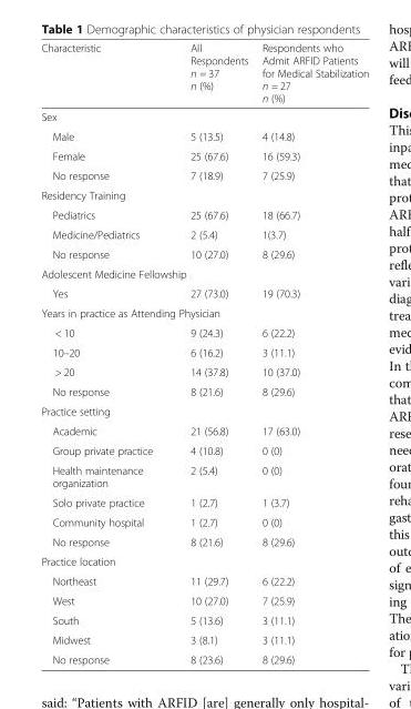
<table><thead><tr><td>Characteristic</td><td>All Respondents n = 37 n (%)</td><td>Respondents who Admit ARFID Patients for Medical Stabilization n = 27 n (%)</td></tr></thead><tbody><tr><td colspan="3">Sex</td></tr><tr><td>Male</td><td>5 (13.5)</td><td>4 (14.8)</td></tr><tr><td>Female</td><td>25 (67.6)</td><td>16 (59.3)</td></tr><tr><td>No response</td><td>7 (18.9)</td><td>7 (25.9)</td></tr><tr><td colspan="3">Residency Training</td></tr><tr><td>Pediatrics</td><td>25 (67.6)</td><td>18 (66.7)</td></tr><tr><td>Medicine/Pediatrics</td><td>2 (5.4)</td><td>1(3.7)</td></tr><tr><td>No response</td><td>10 (27.0)</td><td>8 (29.6)</td></tr><tr><td colspan="3">Adolescent Medicine Fellowship</td></tr><tr><td>Yes</td><td>27 (73.0)</td><td>19 (70.3)</td></tr><tr><td colspan="3">Years in practice as Attending Physician</td></tr><tr><td>&lt; 10</td><td>9 (24.3)</td><td>6 (22.2)</td></tr><tr><td>10–20</td><td>6 (16.2)</td><td>3 (11.1)</td></tr><tr><td>&gt; 20</td><td>14 (37.8)</td><td>10 (37.0)</td></tr><tr><td>No response</td><td>8 (21.6)</td><td>8 (29.6)</td></tr><tr><td colspan="3">Practice setting</td></tr><tr><td>Academic</td><td>21 (56.8)</td><td>17 (63.0)</td></tr><tr><td>Group private practice</td><td>4 (10.8)</td><td>0 (0)</td></tr><tr><td>Health maintenance organization</td><td>2 (5.4)</td><td>0 (0)</td></tr><tr><td>Solo private practice</td><td>1 (2.7)</td><td>1 (3.7)</td></tr><tr><td>Community hospital</td><td>1 (2.7)</td><td>0 (0)</td></tr><tr><td>No response</td><td>8 (21.6)</td><td>8 (29.6)</td></tr><tr><td colspan="3">Practice location</td></tr><tr><td>Northeast</td><td>11 (29.7)</td><td>6 (22.2)</td></tr><tr><td>West</td><td>10 (27.0)</td><td>7 (25.9)</td></tr><tr><td>South</td><td>5 (13.6)</td><td>3 (11.1)</td></tr><tr><td>Midwest</td><td>3 (8.1)</td><td>3 (11.1)</td></tr><tr><td>No response</td><td>8 (23.6)</td><td>8 (29.6)</td></tr></tbody></table>